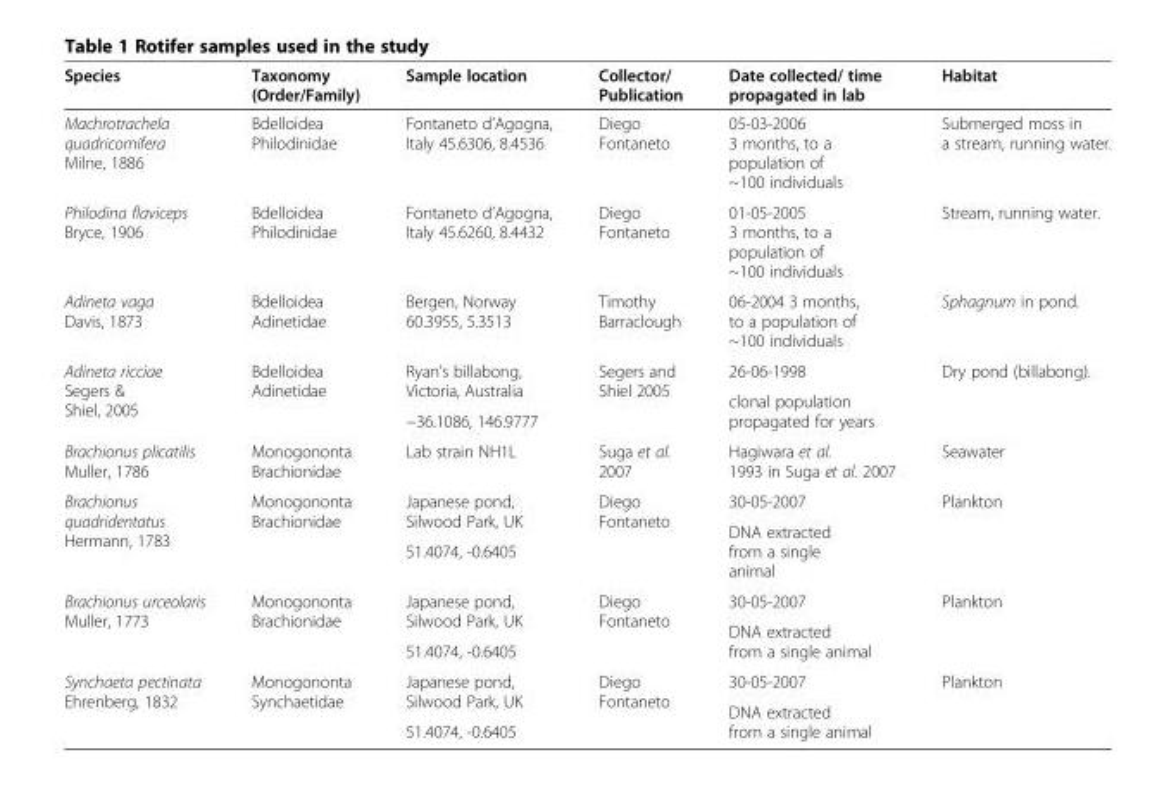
<table><thead><tr><td>Species</td><td>Taxonomy (Order/Family)</td><td>Sample location</td><td>Collector/ Publication</td><td>Date collected/ time propagated in lab</td><td>Habitat</td></tr></thead><tbody><tr><td>Machrotrachela quadricornifera Milne, 1886</td><td>Bdelloidea Philodinidae</td><td>Fontaneto d’Agogna, Italy 45.6306, 8.4536</td><td>Diego Fontaneto</td><td>05-03-2006 3 months, to a population of ~100 individuals</td><td>Submerged moss in a stream, running water.</td></tr><tr><td>Philodina flaviceps Bryce, 1906</td><td>Bdelloidea Philodinidae</td><td>Fontaneto d’Agogna, Italy 45.6260, 8.4432</td><td>Diego Fontaneto</td><td>01-05-2005 3 months, to a population of ~100 individuals</td><td>Stream, running water.</td></tr><tr><td>Adineta vaga Davis, 1873</td><td>Bdelloidea Adinetidae</td><td>Bergen, Norway 60.3955, 5.3513</td><td>Timothy Barraclough</td><td>06-2004 3 months, to a population of ~100 individuals</td><td>Sphagnum in pond.</td></tr><tr><td rowspan="3">Adineta ricciae Segers &amp; Shiel, 2005</td><td rowspan="3">Bdelloidea Adinetidae</td><td rowspan="2">Ryan’s billabong, Victoria, Australia</td><td rowspan="3">Segers and Shiel 2005</td><td>26-06-1998</td><td rowspan="3">Dry pond (billabong).</td></tr><tr><td rowspan="2">clonal population propagated for years</td></tr><tr><td>−36.1086, 146.9777</td></tr><tr><td>Brachionus plicatilis Muller, 1786</td><td>Monogononta Brachionidae</td><td>Lab strain NH1L</td><td>Suga et al. 2007</td><td>Hagiwara et al. 1993 in Suga et al. 2007</td><td>Seawater</td></tr><tr><td rowspan="3">Brachionus quadridentatus Hermann, 1783</td><td rowspan="3">Monogononta Brachionidae</td><td rowspan="2">Japanese pond, Silwood Park, UK</td><td rowspan="3">Diego Fontaneto</td><td>30-05-2007</td><td rowspan="3">Plankton</td></tr><tr><td rowspan="2">DNA extracted from a single animal</td></tr><tr><td>51.4074, -0.6405</td></tr><tr><td rowspan="3">Brachionus urceolaris Muller, 1773</td><td rowspan="3">Monogononta Brachionidae</td><td rowspan="2">Japanese pond, Silwood Park, UK</td><td rowspan="3">Diego Fontaneto</td><td>30-05-2007</td><td rowspan="3">Plankton</td></tr><tr><td rowspan="2">DNA extracted from a single animal</td></tr><tr><td>51.4074, -0.6405</td></tr><tr><td rowspan="3">Synchaeta pectinata Ehrenberg, 1832</td><td rowspan="3">Monogononta Synchaetidae</td><td rowspan="2">Japanese pond, Silwood Park, UK</td><td rowspan="3">Diego Fontaneto</td><td>30-05-2007</td><td rowspan="3">Plankton</td></tr><tr><td rowspan="2">DNA extracted from a single animal</td></tr><tr><td>51.4074, -0.6405</td></tr></tbody></table>